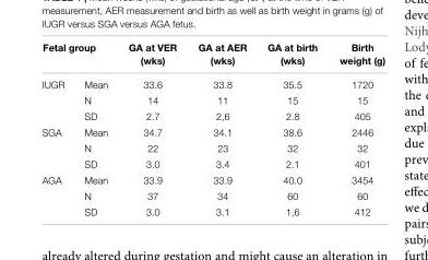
<table><thead><tr><td colspan="2">Fetal group</td><td rowspan="2">GA at VER (wks) 33.6</td><td rowspan="2">GA at AER (wks) 33.8</td><td rowspan="2">GA at birth (wks) 35.5</td><td rowspan="2">Birth weight (g) 1720</td></tr><tr><td>IUGR</td><td>Mean</td></tr></thead><tbody><tr><td></td><td>N</td><td>14</td><td>11</td><td>15</td><td>15</td></tr><tr><td></td><td>SD</td><td>2.7</td><td>2,6</td><td>2.8</td><td>405</td></tr><tr><td rowspan="3">SGA</td><td>Mean</td><td>34.7</td><td>34.1</td><td>38.6</td><td>2446</td></tr><tr><td>N</td><td>22</td><td>23</td><td>32</td><td>32</td></tr><tr><td>SD</td><td>3.0</td><td>3.4</td><td>2.1</td><td>401</td></tr><tr><td rowspan="3">AGA</td><td>Mean</td><td>33.9</td><td>33.9</td><td>40.0</td><td>3454</td></tr><tr><td>N</td><td>37</td><td>34</td><td>60</td><td>60</td></tr><tr><td>SD</td><td>3.0</td><td>3.1</td><td>1,6</td><td>412</td></tr></tbody></table>